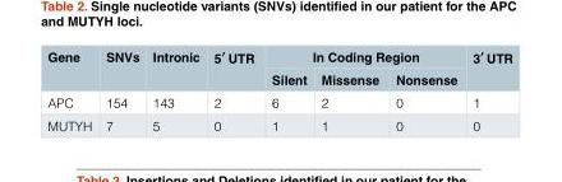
<table><thead><tr><td rowspan="2">Gene</td><td rowspan="2">SNVs</td><td rowspan="2">Intronic</td><td rowspan="2">5’ UTR</td><td colspan="3">In Coding Region</td><td rowspan="2">3’ UTR</td></tr><tr><td>Silent</td><td>Missense</td><td>Nonsense</td></tr></thead><tbody><tr><td>APC</td><td>154</td><td>143</td><td>2</td><td>6</td><td>2</td><td>0</td><td>1</td></tr><tr><td>MUTYH</td><td>7</td><td>5</td><td>0</td><td>1</td><td>1</td><td>0</td><td>0</td></tr></tbody></table>